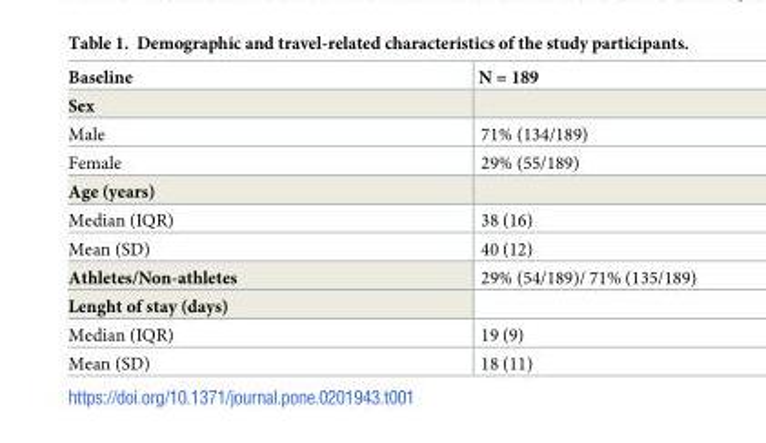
<table><thead><tr><td>Baseline</td><td>N = 189</td></tr></thead><tbody><tr><td colspan="2">Sex</td></tr><tr><td>Male</td><td>71% (134/189)</td></tr><tr><td>Female</td><td>29% (55/189)</td></tr><tr><td colspan="2">Age (years)</td></tr><tr><td>Median (IQR)</td><td>38 (16)</td></tr><tr><td>Mean (SD)</td><td>40 (12)</td></tr><tr><td>Athletes/Non-athletes</td><td>29% (54/189)/ 71% (135/189)</td></tr><tr><td colspan="2">Lenght of stay (days)</td></tr><tr><td>Median (IQR)</td><td>19 (9)</td></tr><tr><td>Mean (SD)</td><td>18 (11)</td></tr></tbody></table>